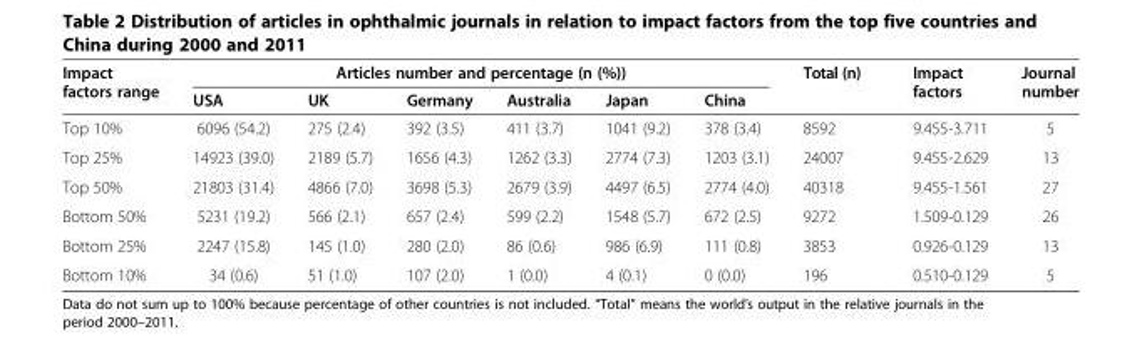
<table><thead><tr><td rowspan="2">Impact factors range</td><td colspan="6">Articles number and percentage (n (%))</td><td rowspan="2">Total (n)</td><td rowspan="2">Impact factors</td><td rowspan="2">Journal number</td></tr><tr><td>USA</td><td>UK</td><td>Germany</td><td>Australia</td><td>Japan</td><td>China</td></tr></thead><tbody><tr><td>Top 10%</td><td>6096 (54.2)</td><td>275 (2.4)</td><td>392 (3.5)</td><td>411 (3.7)</td><td>1041 (9.2)</td><td>378 (3.4)</td><td>8592</td><td>9.455-3.711</td><td>5</td></tr><tr><td>Top 25%</td><td>14923 (39.0)</td><td>2189 (5.7)</td><td>1656 (4.3)</td><td>1262 (3.3)</td><td>2774 (7.3)</td><td>1203 (3.1)</td><td>24007</td><td>9.455-2.629</td><td>13</td></tr><tr><td>Top 50%</td><td>21803 (31.4)</td><td>4866 (7.0)</td><td>3698 (5.3)</td><td>2679 (3.9)</td><td>4497 (6.5)</td><td>2774 (4.0)</td><td>40318</td><td>9.455-1.561</td><td>27</td></tr><tr><td>Bottom 50%</td><td>5231 (19.2)</td><td>566 (2.1)</td><td>657 (2.4)</td><td>599 (2.2)</td><td>1548 (5.7)</td><td>672 (2.5)</td><td>9272</td><td>1.509-0.129</td><td>26</td></tr><tr><td>Bottom 25%</td><td>2247 (15.8)</td><td>145 (1.0)</td><td>280 (2.0)</td><td>86 (0.6)</td><td>986 (6.9)</td><td>111 (0.8)</td><td>3853</td><td>0.926-0.129</td><td>13</td></tr><tr><td>Bottom 10%</td><td>34 (0.6)</td><td>51 (1.0)</td><td>107 (2.0)</td><td>1 (0.0)</td><td>4 (0.1)</td><td>0 (0.0)</td><td>196</td><td>0.510-0.129</td><td>5</td></tr></tbody></table>